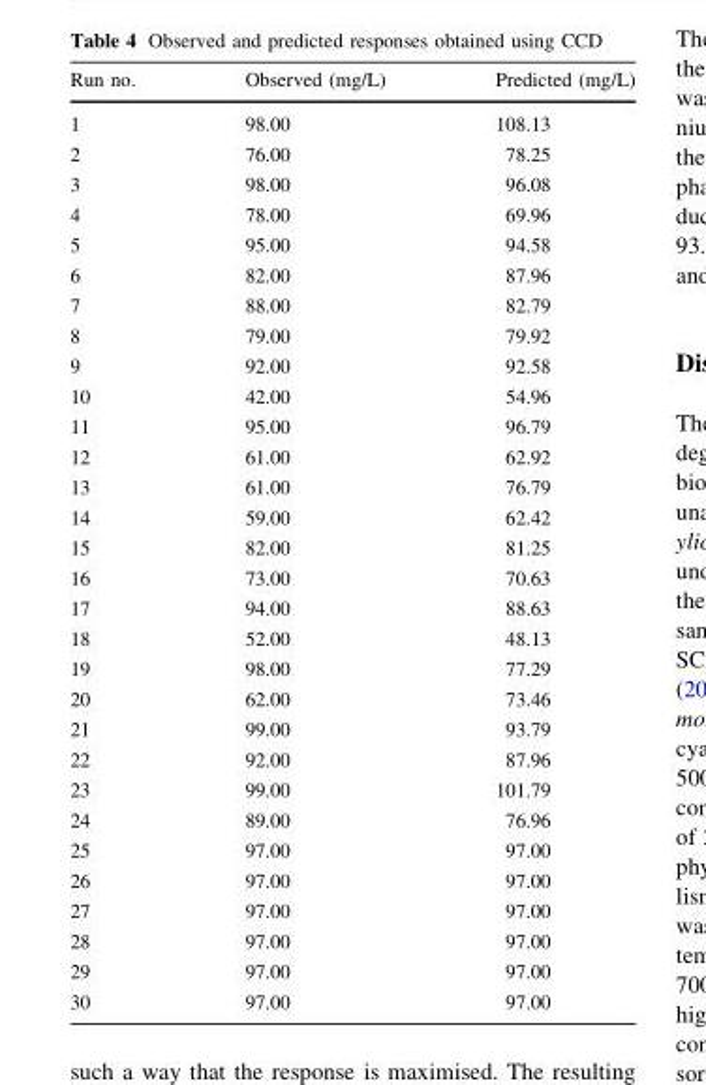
<table><thead><tr><td>Run no.</td><td>Observed (mg/L)</td><td>Predicted (mg/L)</td></tr></thead><tbody><tr><td>1</td><td>98.00</td><td>108.13</td></tr><tr><td>2</td><td>76.00</td><td>78.25</td></tr><tr><td>3</td><td>98.00</td><td>96.08</td></tr><tr><td>4</td><td>78.00</td><td>69.96</td></tr><tr><td>5</td><td>95.00</td><td>94.58</td></tr><tr><td>6</td><td>82.00</td><td>87.96</td></tr><tr><td>7</td><td>88.00</td><td>82.79</td></tr><tr><td>8</td><td>79.00</td><td>79.92</td></tr><tr><td>9</td><td>92.00</td><td>92.58</td></tr><tr><td>10</td><td>42.00</td><td>54.96</td></tr><tr><td>11</td><td>95.00</td><td>96.79</td></tr><tr><td>12</td><td>61.00</td><td>62.92</td></tr><tr><td>13</td><td>61.00</td><td>76.79</td></tr><tr><td>14</td><td>59.00</td><td>62.42</td></tr><tr><td>15</td><td>82.00</td><td>81.25</td></tr><tr><td>16</td><td>73.00</td><td>70.63</td></tr><tr><td>17</td><td>94.00</td><td>88.63</td></tr><tr><td>18</td><td>52.00</td><td>48.13</td></tr><tr><td>19</td><td>98.00</td><td>77.29</td></tr><tr><td>20</td><td>62.00</td><td>73.46</td></tr><tr><td>21</td><td>99.00</td><td>93.79</td></tr><tr><td>22</td><td>92.00</td><td>87.96</td></tr><tr><td>23</td><td>99.00</td><td>101.79</td></tr><tr><td>24</td><td>89.00</td><td>76.96</td></tr><tr><td>25</td><td>97.00</td><td>97.00</td></tr><tr><td>26</td><td>97.00</td><td>97.00</td></tr><tr><td>27</td><td>97.00</td><td>97.00</td></tr><tr><td>28</td><td>97.00</td><td>97.00</td></tr><tr><td>29</td><td>97.00</td><td>97.00</td></tr><tr><td>30</td><td>97.00</td><td>97.00</td></tr></tbody></table>